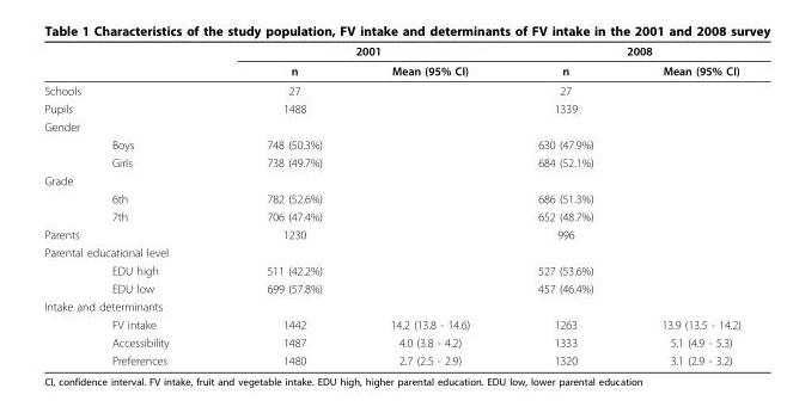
<table><thead><tr><td rowspan="2"></td><td colspan="2">2001</td><td colspan="2">2008</td></tr><tr><td>n</td><td>Mean (95% CI)</td><td>n</td><td>Mean (95% CI)</td></tr></thead><tbody><tr><td>Schools</td><td>27</td><td></td><td>27</td><td></td></tr><tr><td>Pupils</td><td>1488</td><td></td><td>1339</td><td></td></tr><tr><td colspan="5">Gender</td></tr><tr><td>Boys</td><td>748 (50.3%)</td><td></td><td>630 (47.9%)</td><td></td></tr><tr><td>Girls</td><td>738 (49.7%)</td><td></td><td>684 (52.1%)</td><td></td></tr><tr><td colspan="5">Grade</td></tr><tr><td>6th</td><td>782 (52.6%)</td><td></td><td>686 (51.3%)</td><td></td></tr><tr><td>7th</td><td>706 (47.4%)</td><td></td><td>652 (48.7%)</td><td></td></tr><tr><td>Parents</td><td>1230</td><td></td><td>996</td><td></td></tr><tr><td colspan="5">Parental educational level</td></tr><tr><td>EDU high</td><td>511 (42.2%)</td><td></td><td>527 (53.6%)</td><td></td></tr><tr><td>EDU low</td><td>699 (57.8%)</td><td></td><td>457 (46.4%)</td><td></td></tr><tr><td colspan="5">Intake and determinants</td></tr><tr><td>FV intake</td><td>1442</td><td>14.2 (13.8 - 14.6)</td><td>1263</td><td>13.9 (13.5 - 14.2)</td></tr><tr><td>Accessibility</td><td>1487</td><td>4.0 (3.8 - 4.2)</td><td>1333</td><td>5.1 (4.9 - 5.3)</td></tr><tr><td>Preferences</td><td>1480</td><td>2.7 (2.5 - 2.9)</td><td>1320</td><td>3.1 (2.9 - 3.2)</td></tr></tbody></table>